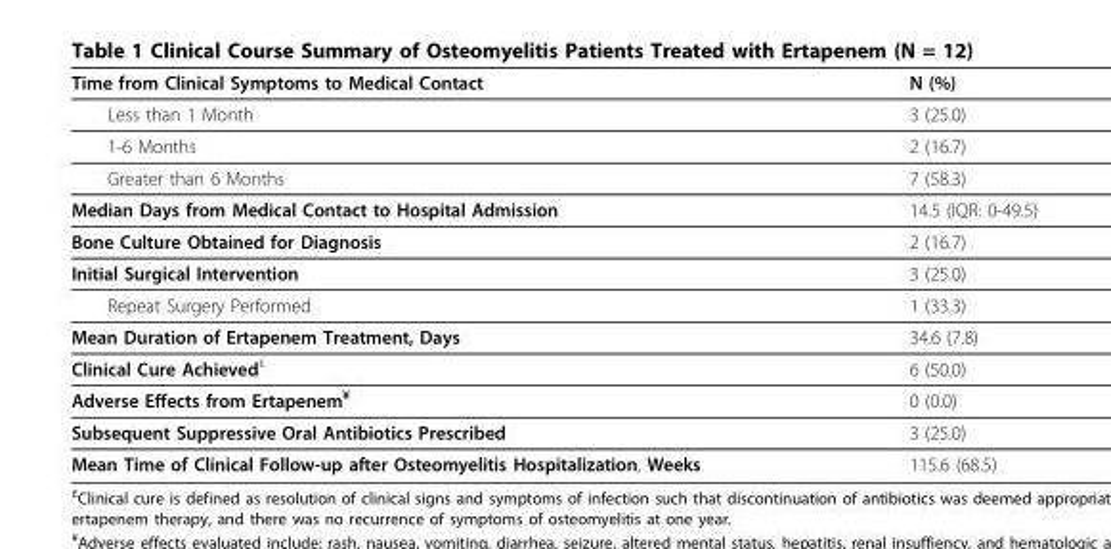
<table><thead><tr><td>Time from Clinical Symptoms to Medical Contact</td><td>N (%)</td></tr></thead><tbody><tr><td>Less than 1 Month</td><td>3 (25.0)</td></tr><tr><td>1-6 Months</td><td>2 (16.7)</td></tr><tr><td>Greater than 6 Months</td><td>7 (58.3)</td></tr><tr><td>Median Days from Medical Contact to Hospital Admission</td><td>14.5 (IQR: 0-49.5)</td></tr><tr><td>Bone Culture Obtained for Diagnosis</td><td>2 (16.7)</td></tr><tr><td>Initial Surgical Intervention</td><td>3 (25.0)</td></tr><tr><td>Repeat Surgery Performed</td><td>1 (33.3)</td></tr><tr><td>Mean Duration of Ertapenem Treatment, Days</td><td>34.6 (7.8)</td></tr><tr><td>Clinical Cure Achieved<sup>£</sup></td><td>6 (50.0)</td></tr><tr><td>Adverse Effects from Ertapenem<sup>¥</sup></td><td>0 (0.0)</td></tr><tr><td>Subsequent Suppressive Oral Antibiotics Prescribed</td><td>3 (25.0)</td></tr><tr><td>Mean Time of Clinical Follow-up after Osteomyelitis Hospitalization, Weeks</td><td>115.6 (68.5)</td></tr></tbody></table>